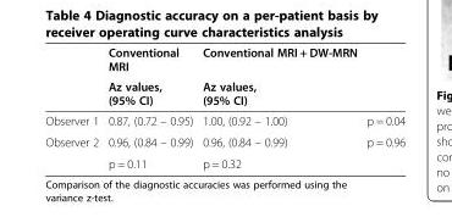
<table><thead><tr><td rowspan="2"></td><td rowspan="2">Conventional MRI Az values, (95% CI)</td><td rowspan="2">Conventional MRI + DW-MRN Az values, (95% CI)</td><td rowspan="2"></td></tr><tr></tr></thead><tbody><tr><td>Observer 1</td><td>0.87, (0.72 – 0.95)</td><td>1.00, (0.92 – 1.00)</td><td>p = 0.04</td></tr><tr><td rowspan="2">Observer 2</td><td>0.96, (0.84 – 0.99)</td><td>0.96, (0.84 – 0.99)</td><td>p = 0.96</td></tr><tr><td>p = 0.11</td><td>p = 0.32</td><td></td></tr></tbody></table>